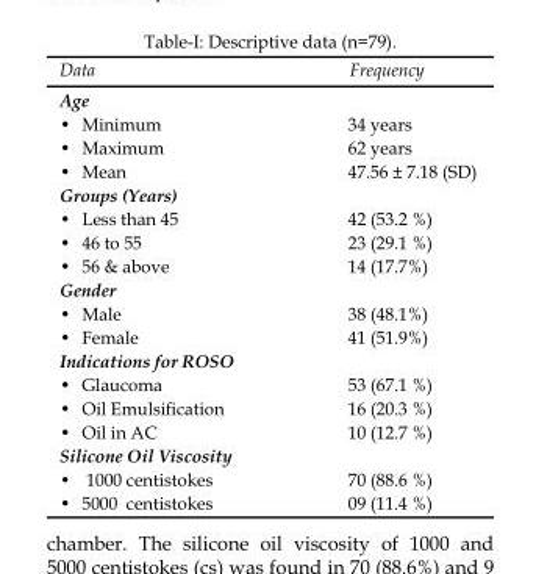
<table><thead><tr><td>Data</td><td>Frequency</td></tr></thead><tbody><tr><td colspan="2">Age</td></tr><tr><td>• Minimum</td><td>34 years</td></tr><tr><td>• Maximum</td><td>62 years</td></tr><tr><td>• Mean</td><td>47.56 ± 7.18 (SD)</td></tr><tr><td colspan="2">Groups (Years)</td></tr><tr><td>• Less than 45</td><td>42 (53.2 %)</td></tr><tr><td>• 46 to 55</td><td>23 (29.1 %)</td></tr><tr><td>• 56 &amp; above</td><td>14 (17.7%)</td></tr><tr><td colspan="2">Gender</td></tr><tr><td>• Male</td><td>38 (48.1%)</td></tr><tr><td>• Female</td><td>41 (51.9%)</td></tr><tr><td colspan="2">Indications for ROSO</td></tr><tr><td>• Glaucoma</td><td>53 (67.1 %)</td></tr><tr><td>• Oil Emulsification</td><td>16 (20.3 %)</td></tr><tr><td>• Oil in AC</td><td>10 (12.7 %)</td></tr><tr><td colspan="2">Silicone Oil Viscosity</td></tr><tr><td>• 1000 centistokes</td><td>70 (88.6 %)</td></tr><tr><td>• 5000 centistokes</td><td>09 (11.4 %)</td></tr></tbody></table>